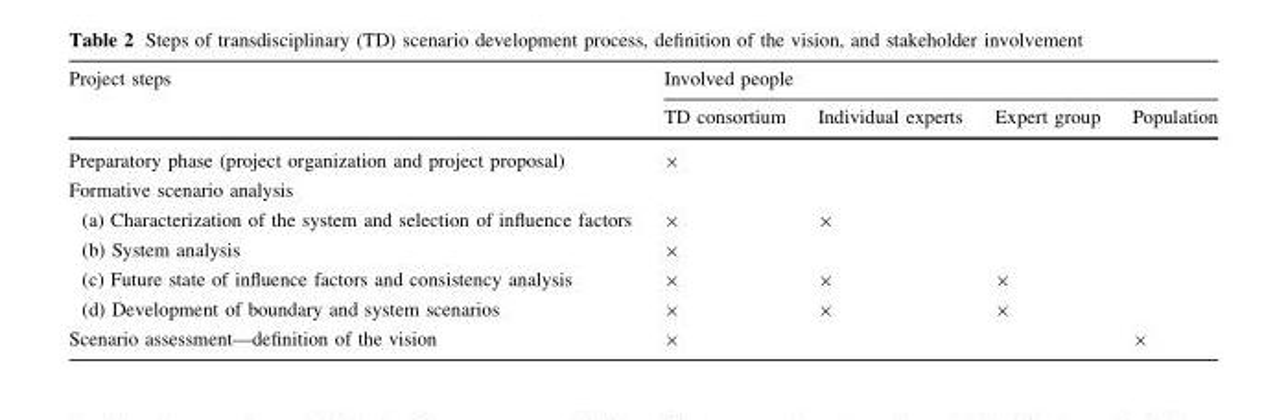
<table><thead><tr><td rowspan="2">Project steps</td><td colspan="4">Involved people</td></tr><tr><td>TD consortium</td><td>Individual experts</td><td>Expert group</td><td>Population</td></tr></thead><tbody><tr><td>Preparatory phase (project organization and project proposal)</td><td>×</td><td></td><td></td><td></td></tr><tr><td colspan="5">Formative scenario analysis</td></tr><tr><td>(a) Characterization of the system and selection of influence factors</td><td>×</td><td>×</td><td></td><td></td></tr><tr><td>(b) System analysis</td><td>×</td><td></td><td></td><td></td></tr><tr><td>(c) Future state of influence factors and consistency analysis</td><td>×</td><td>×</td><td>×</td><td></td></tr><tr><td>(d) Development of boundary and system scenarios</td><td>×</td><td>×</td><td>×</td><td></td></tr><tr><td>Scenario assessment—definition of the vision</td><td>×</td><td></td><td></td><td>×</td></tr></tbody></table>